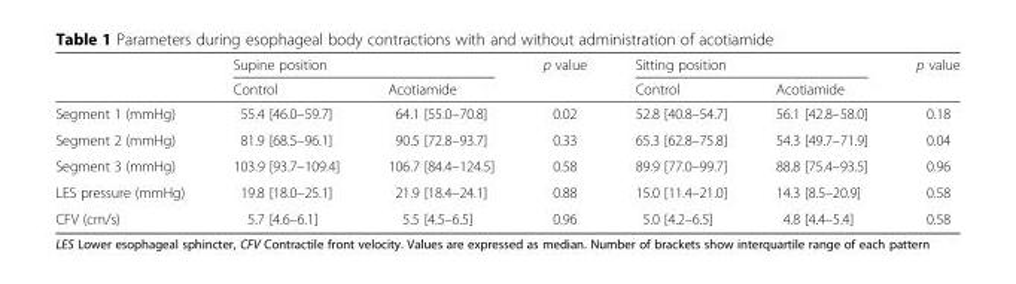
<table><thead><tr><td rowspan="2"></td><td colspan="2">Supine position</td><td rowspan="2">p value</td><td colspan="2">Sitting position</td><td rowspan="2">p value</td></tr><tr><td>Control</td><td>Acotiamide</td><td>Control</td><td>Acotiamide</td></tr></thead><tbody><tr><td>Segment 1 (mmHg)</td><td>55.4 [46.0–59.7]</td><td>64.1 [55.0–70.8]</td><td>0.02</td><td>52.8 [40.8–54.7]</td><td>56.1 [42.8–58.0]</td><td>0.18</td></tr><tr><td>Segment 2 (mmHg)</td><td>81.9 [68.5–96.1]</td><td>90.5 [72.8–93.7]</td><td>0.33</td><td>65.3 [62.8–75.8]</td><td>54.3 [49.7–71.9]</td><td>0.04</td></tr><tr><td>Segment 3 (mmHg)</td><td>103.9 [93.7–109.4]</td><td>106.7 [84.4–124.5]</td><td>0.58</td><td>89.9 [77.0–99.7]</td><td>88.8 [75.4–93.5]</td><td>0.96</td></tr><tr><td>LES pressure (mmHg)</td><td>19.8 [18.0–25.1]</td><td>21.9 [18.4–24.1]</td><td>0.88</td><td>15.0 [11.4–21.0]</td><td>14.3 [8.5–20.9]</td><td>0.58</td></tr><tr><td>CFV (cm/s)</td><td>5.7 [4.6–6.1]</td><td>5.5 [4.5–6.5]</td><td>0.96</td><td>5.0 [4.2–6.5]</td><td>4.8 [4.4–5.4]</td><td>0.58</td></tr></tbody></table>